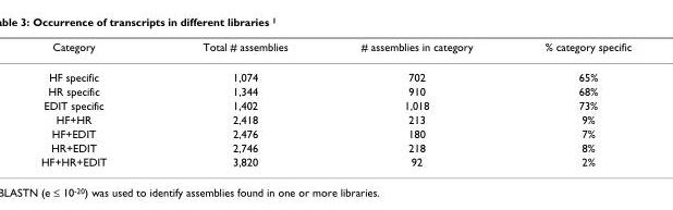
<table><thead><tr><td>Category</td><td>Total # assemblies</td><td># assemblies in category</td><td>% category specific</td></tr></thead><tbody><tr><td>HF specific</td><td>1,074</td><td>702</td><td>65%</td></tr><tr><td>HR specific</td><td>1,344</td><td>910</td><td>68%</td></tr><tr><td>EDIT specific</td><td>1,402</td><td>1,018</td><td>73%</td></tr><tr><td>HF+HR</td><td>2,418</td><td>213</td><td>9%</td></tr><tr><td>HF+EDIT</td><td>2,476</td><td>180</td><td>7%</td></tr><tr><td>HR+EDIT</td><td>2,746</td><td>218</td><td>8%</td></tr><tr><td>HF+HR+EDIT</td><td>3,820</td><td>92</td><td>2%</td></tr></tbody></table>